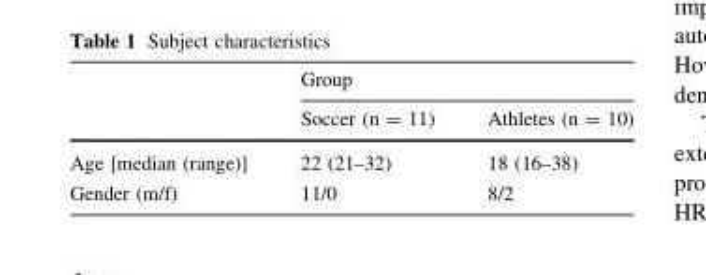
<table><thead><tr><td rowspan="2"></td><td colspan="2">Group</td></tr><tr><td>Soccer (n = 11)</td><td>Athletes (n = 10)</td></tr></thead><tbody><tr><td>Age [median (range)]</td><td>22 (21–32)</td><td>18 (16–38)</td></tr><tr><td>Gender (m/f)</td><td>11/0</td><td>8/2</td></tr></tbody></table>